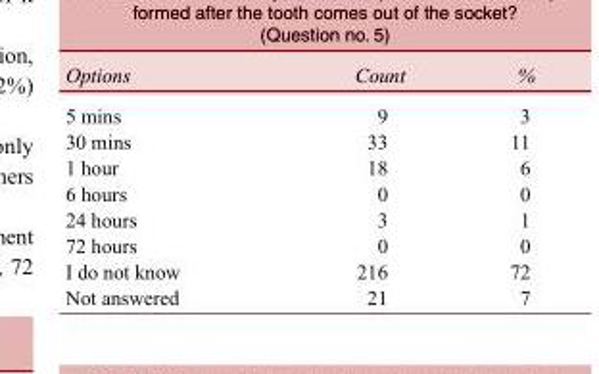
<table><tbody><tr><td>Options</td><td>Count</td><td>%</td></tr><tr><td>5 mins</td><td>9</td><td>3</td></tr><tr><td>30 mins</td><td>33</td><td>11</td></tr><tr><td>1 hour</td><td>18</td><td>6</td></tr><tr><td>6 hours</td><td>0</td><td>0</td></tr><tr><td>24 hours</td><td>3</td><td>1</td></tr><tr><td>72 hours</td><td>0</td><td>0</td></tr><tr><td>I do not know</td><td>216</td><td>72</td></tr><tr><td>Not answered</td><td>21</td><td>7</td></tr></tbody></table>